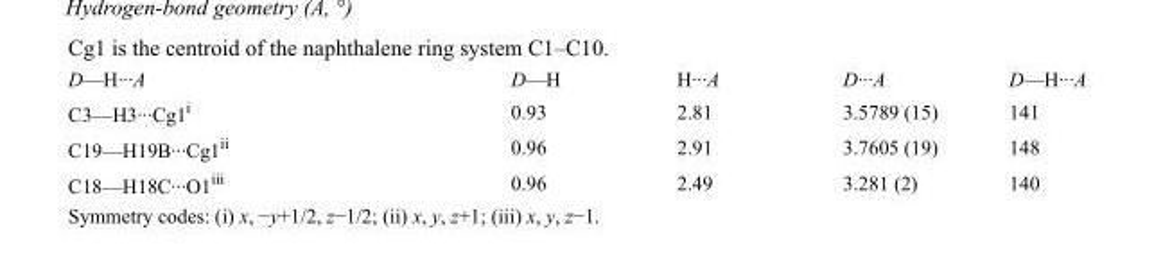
<table><tbody><tr><td>D—H···A</td><td>D—H</td><td>H···A</td><td>D···A</td><td>D—H···A</td></tr><tr><td>C3—H3···Cg1<sup>i</sup></td><td>0.93</td><td>2.81</td><td>3.5789 (15)</td><td>141</td></tr><tr><td>C19—H19B···Cg1<sup>ii</sup></td><td>0.96</td><td>2.91</td><td>3.7605 (19)</td><td>148</td></tr><tr><td>C18—H18C···O1<sup>iii</sup></td><td>0.96</td><td>2.49</td><td>3.281 (2)</td><td>140</td></tr></tbody></table>